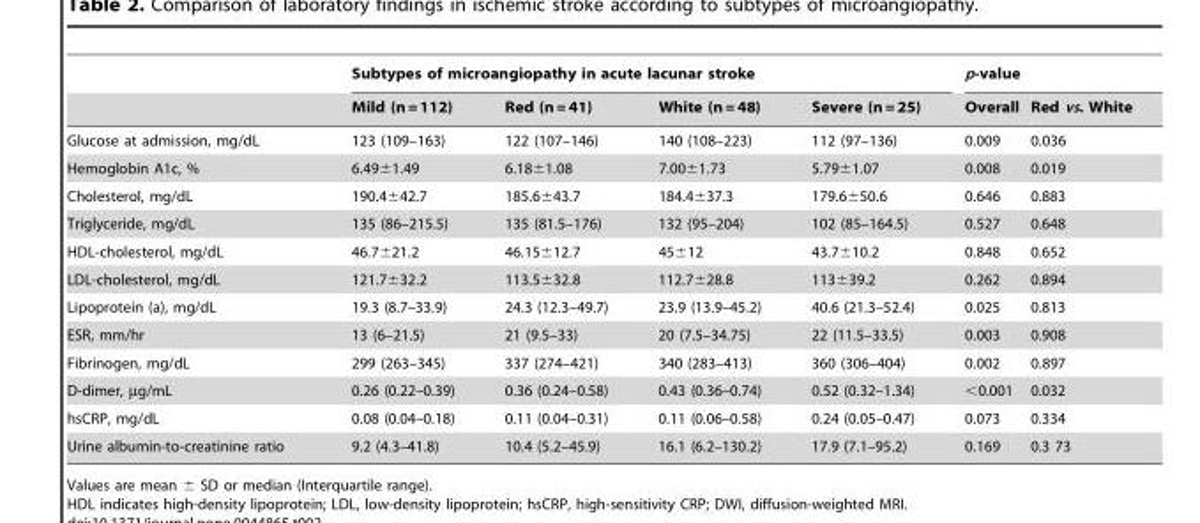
<table><thead><tr><td rowspan="2"></td><td colspan="4">Subtypes of microangiopathy in acute lacunar stroke</td><td colspan="2">p-value</td></tr><tr><td>Mild (n = 112)</td><td>Red (n = 41)</td><td>White (n = 48)</td><td>Severe (n = 25)</td><td>Overall</td><td>Red vs. White</td></tr></thead><tbody><tr><td>Glucose at admission, mg/dL</td><td>123 (109–163)</td><td>122 (107–146)</td><td>140 (108–223)</td><td>112 (97–136)</td><td>0.009</td><td>0.036</td></tr><tr><td>Hemoglobin A1c, %</td><td>6.49±1.49</td><td>6.18±1.08</td><td>7.00±1.73</td><td>5.79±1.07</td><td>0.008</td><td>0.019</td></tr><tr><td>Cholesterol, mg/dL</td><td>190.4±42.7</td><td>185.6±43.7</td><td>184.4±37.3</td><td>179.6±50.6</td><td>0.646</td><td>0.883</td></tr><tr><td>Triglyceride, mg/dL</td><td>135 (86–215.5)</td><td>135 (81.5–176)</td><td>132 (95–204)</td><td>102 (85–164.5)</td><td>0.527</td><td>0.648</td></tr><tr><td>HDL-cholesterol, mg/dL</td><td>46.7±21.2</td><td>46.15±12.7</td><td>45±12</td><td>43.7±10.2</td><td>0.848</td><td>0.652</td></tr><tr><td>LDL-cholesterol, mg/dL</td><td>121.7±32.2</td><td>113.5±32.8</td><td>112.7±28.8</td><td>113±39.2</td><td>0.262</td><td>0.894</td></tr><tr><td>Lipoprotein (a), mg/dL</td><td>19.3 (8.7–33.9)</td><td>24.3 (12.3–49.7)</td><td>23.9 (13.9–45.2)</td><td>40.6 (21.3–52.4)</td><td>0.025</td><td>0.813</td></tr><tr><td>ESR, mm/hr</td><td>13 (6–21.5)</td><td>21 (9.5–33)</td><td>20 (7.5–34.75)</td><td>22 (11.5–33.5)</td><td>0.003</td><td>0.908</td></tr><tr><td>Fibrinogen, mg/dL</td><td>299 (263–345)</td><td>337 (274–421)</td><td>340 (283–413)</td><td>360 (306–404)</td><td>0.002</td><td>0.897</td></tr><tr><td>D-dimer, µg/mL</td><td>0.26 (0.22–0.39)</td><td>0.36 (0.24–0.58)</td><td>0.43 (0.36–0.74)</td><td>0.52 (0.32–1.34)</td><td>&lt;0.001</td><td>0.032</td></tr><tr><td>hsCRP, mg/dL</td><td>0.08 (0.04–0.18)</td><td>0.11 (0.04–0.31)</td><td>0.11 (0.06–0.58)</td><td>0.24 (0.05–0.47)</td><td>0.073</td><td>0.334</td></tr><tr><td>Urine albumin-to-creatinine ratio</td><td>9.2 (4.3–41.8)</td><td>10.4 (5.2–45.9)</td><td>16.1 (6.2–130.2)</td><td>17.9 (7.1–95.2)</td><td>0.169</td><td>0.3 73</td></tr></tbody></table>